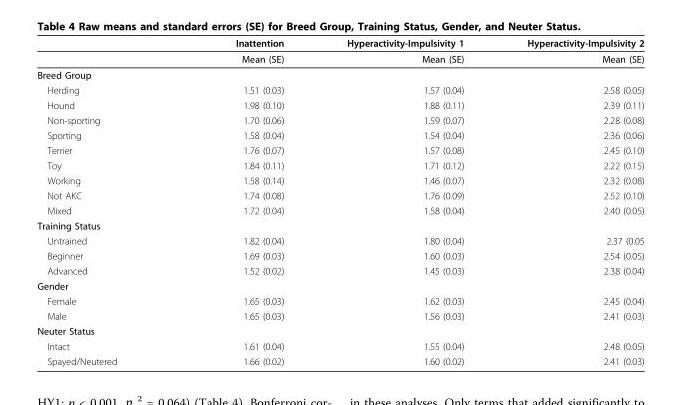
<table><thead><tr><td rowspan="2"></td><td rowspan="2">Inattention Mean (SE)</td><td rowspan="2">Hyperactivity-Impulsivity 1 Mean (SE)</td><td rowspan="2">Hyperactivity-Impulsivity 2 Mean (SE)</td></tr><tr></tr></thead><tbody><tr><td colspan="4">Breed Group</td></tr><tr><td>Herding</td><td>1.51 (0.03)</td><td>1.57 (0.04)</td><td>2.58 (0.05)</td></tr><tr><td>Hound</td><td>1.98 (0.10)</td><td>1.88 (0.11)</td><td>2.39 (0.11)</td></tr><tr><td>Non-sporting</td><td>1.70 (0.06)</td><td>1.59 (0.07)</td><td>2.28 (0.08)</td></tr><tr><td>Sporting</td><td>1.58 (0.04)</td><td>1.54 (0.04)</td><td>2.36 (0.06)</td></tr><tr><td>Terrier</td><td>1.76 (0.07)</td><td>1.57 (0.08)</td><td>2.45 (0.10)</td></tr><tr><td>Toy</td><td>1.84 (0.11)</td><td>1.71 (0.12)</td><td>2.22 (0.15)</td></tr><tr><td>Working</td><td>1.58 (0.14)</td><td>1.46 (0.07)</td><td>2.32 (0.08)</td></tr><tr><td>Not AKC</td><td>1.74 (0.08)</td><td>1.76 (0.09)</td><td>2.52 (0.10)</td></tr><tr><td>Mixed</td><td>1.72 (0.04)</td><td>1.58 (0.04)</td><td>2.40 (0.05)</td></tr><tr><td colspan="4">Training Status</td></tr><tr><td>Untrained</td><td>1.82 (0.04)</td><td>1.80 (0.04)</td><td>2.37 (0.05</td></tr><tr><td>Beginner</td><td>1.69 (0.03)</td><td>1.60 (0.03)</td><td>2.54 (0.05)</td></tr><tr><td>Advanced</td><td>1.52 (0.02)</td><td>1.45 (0.03)</td><td>2.38 (0.04)</td></tr><tr><td colspan="4">Gender</td></tr><tr><td>Female</td><td>1.65 (0.03)</td><td>1.62 (0.03)</td><td>2.45 (0.04)</td></tr><tr><td>Male</td><td>1.65 (0.03)</td><td>1.56 (0.03)</td><td>2.41 (0.03)</td></tr><tr><td colspan="4">Neuter Status</td></tr><tr><td>Intact</td><td>1.61 (0.04)</td><td>1.55 (0.04)</td><td>2.48 (0.05)</td></tr><tr><td>Spayed/Neutered</td><td>1.66 (0.02)</td><td>1.60 (0.02)</td><td>2.41 (0.03)</td></tr></tbody></table>